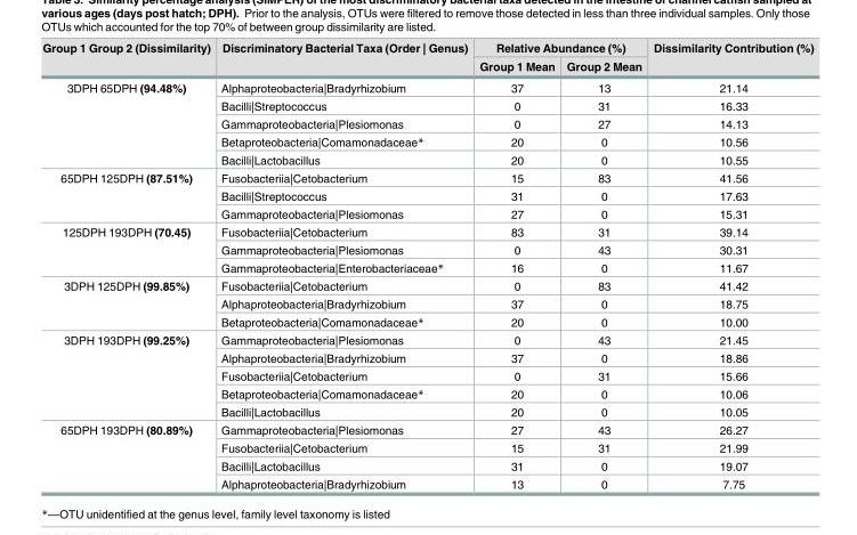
<table><thead><tr><td rowspan="2">Group 1 Group 2 (Dissimilarity)</td><td rowspan="2">Discriminatory Bacterial Taxa (Order | Genus)</td><td colspan="2">Relative Abundance (%)</td><td rowspan="2">Dissimilarity Contribution (%)</td></tr><tr><td>Group 1 Mean</td><td>Group 2 Mean</td></tr></thead><tbody><tr><td rowspan="5">3DPH 65DPH (94.48%)</td><td>Alphaproteobacteria|Bradyrhizobium</td><td>37</td><td>13</td><td>21.14</td></tr><tr><td>Bacilli|Streptococcus</td><td>0</td><td>31</td><td>16.33</td></tr><tr><td>Gammaproteobacteria|Plesiomonas</td><td>0</td><td>27</td><td>14.13</td></tr><tr><td>Betaproteobacteria|Comamonadaceae*</td><td>20</td><td>0</td><td>10.56</td></tr><tr><td>Bacilli|Lactobacillus</td><td>20</td><td>0</td><td>10.55</td></tr><tr><td rowspan="3">65DPH 125DPH (87.51%)</td><td>Fusobacteriia|Cetobacterium</td><td>15</td><td>83</td><td>41.56</td></tr><tr><td>Bacilli|Streptococcus</td><td>31</td><td>0</td><td>17.63</td></tr><tr><td>Gammaproteobacteria|Plesiomonas</td><td>27</td><td>0</td><td>15.31</td></tr><tr><td rowspan="3">125DPH 193DPH (70.45)</td><td>Fusobacteriia|Cetobacterium</td><td>83</td><td>31</td><td>39.14</td></tr><tr><td>Gammaproteobacteria|Plesiomonas</td><td>0</td><td>43</td><td>30.31</td></tr><tr><td>Gammaproteobacteria|Enterobacteriaceae*</td><td>16</td><td>0</td><td>11.67</td></tr><tr><td rowspan="3">3DPH 125DPH (99.85%)</td><td>Fusobacteriia|Cetobacterium</td><td>0</td><td>83</td><td>41.42</td></tr><tr><td>Alphaproteobacteria|Bradyrhizobium</td><td>37</td><td>0</td><td>18.75</td></tr><tr><td>Betaproteobacteria|Comamonadaceae*</td><td>20</td><td>0</td><td>10.00</td></tr><tr><td rowspan="5">3DPH 193DPH (99.25%)</td><td>Gammaproteobacteria|Plesiomonas</td><td>0</td><td>43</td><td>21.45</td></tr><tr><td>Alphaproteobacteria|Bradyrhizobium</td><td>37</td><td>0</td><td>18.86</td></tr><tr><td>Fusobacteriia|Cetobacterium</td><td>0</td><td>31</td><td>15.66</td></tr><tr><td>Betaproteobacteria|Comamonadaceae*</td><td>20</td><td>0</td><td>10.06</td></tr><tr><td>Bacilli|Lactobacillus</td><td>20</td><td>0</td><td>10.05</td></tr><tr><td rowspan="4">65DPH 193DPH (80.89%)</td><td>Gammaproteobacteria|Plesiomonas</td><td>27</td><td>43</td><td>26.27</td></tr><tr><td>Fusobacteriia|Cetobacterium</td><td>15</td><td>31</td><td>21.99</td></tr><tr><td>Bacilli|Lactobacillus</td><td>31</td><td>0</td><td>19.07</td></tr><tr><td>Alphaproteobacteria|Bradyrhizobium</td><td>13</td><td>0</td><td>7.75</td></tr></tbody></table>